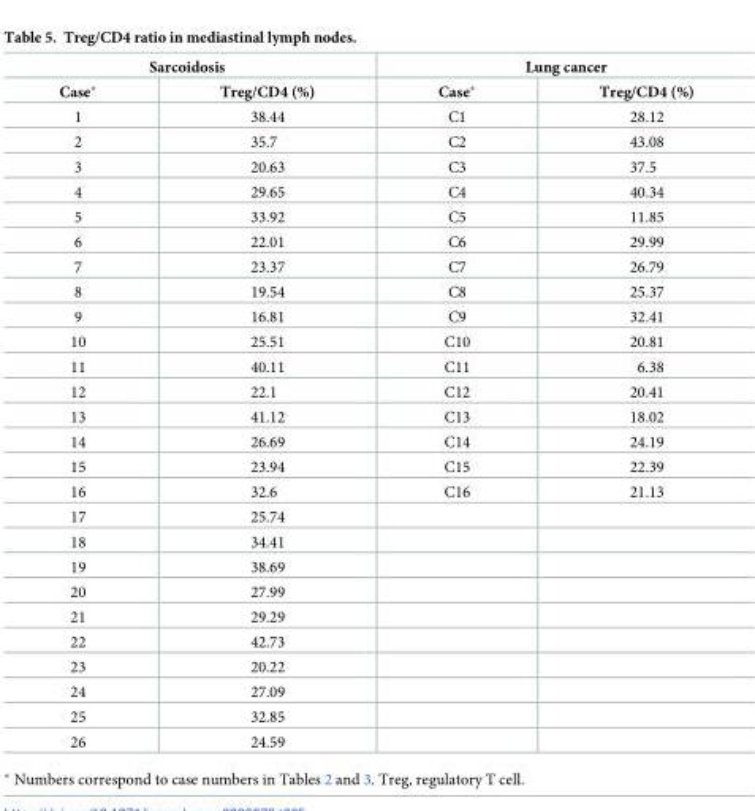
<table><thead><tr><td colspan="2">Sarcoidosis</td><td colspan="2">Lung cancer</td></tr><tr><td>Case*</td><td>Treg/CD4 (%)</td><td>Case*</td><td>Treg/CD4 (%)</td></tr></thead><tbody><tr><td>1</td><td>38.44</td><td>C1</td><td>28.12</td></tr><tr><td>2</td><td>35.7</td><td>C2</td><td>43.08</td></tr><tr><td>3</td><td>20.63</td><td>C3</td><td>37.5</td></tr><tr><td>4</td><td>29.65</td><td>C4</td><td>40.34</td></tr><tr><td>5</td><td>33.92</td><td>C5</td><td>11.85</td></tr><tr><td>6</td><td>22.01</td><td>C6</td><td>29.99</td></tr><tr><td>7</td><td>23.37</td><td>C7</td><td>26.79</td></tr><tr><td>8</td><td>19.54</td><td>C8</td><td>25.37</td></tr><tr><td>9</td><td>16.81</td><td>C9</td><td>32.41</td></tr><tr><td>10</td><td>25.51</td><td>C10</td><td>20.81</td></tr><tr><td>11</td><td>40.11</td><td>C11</td><td>6.38</td></tr><tr><td>12</td><td>22.1</td><td>C12</td><td>20.41</td></tr><tr><td>13</td><td>41.12</td><td>C13</td><td>18.02</td></tr><tr><td>14</td><td>26.69</td><td>C14</td><td>24.19</td></tr><tr><td>15</td><td>23.94</td><td>C15</td><td>22.39</td></tr><tr><td>16</td><td>32.6</td><td>C16</td><td>21.13</td></tr><tr><td>17</td><td>25.74</td><td></td><td></td></tr><tr><td>18</td><td>34.41</td><td></td><td></td></tr><tr><td>19</td><td>38.69</td><td></td><td></td></tr><tr><td>20</td><td>27.99</td><td></td><td></td></tr><tr><td>21</td><td>29.29</td><td></td><td></td></tr><tr><td>22</td><td>42.73</td><td></td><td></td></tr><tr><td>23</td><td>20.22</td><td></td><td></td></tr><tr><td>24</td><td>27.09</td><td></td><td></td></tr><tr><td>25</td><td>32.85</td><td></td><td></td></tr><tr><td>26</td><td>24.59</td><td></td><td></td></tr></tbody></table>